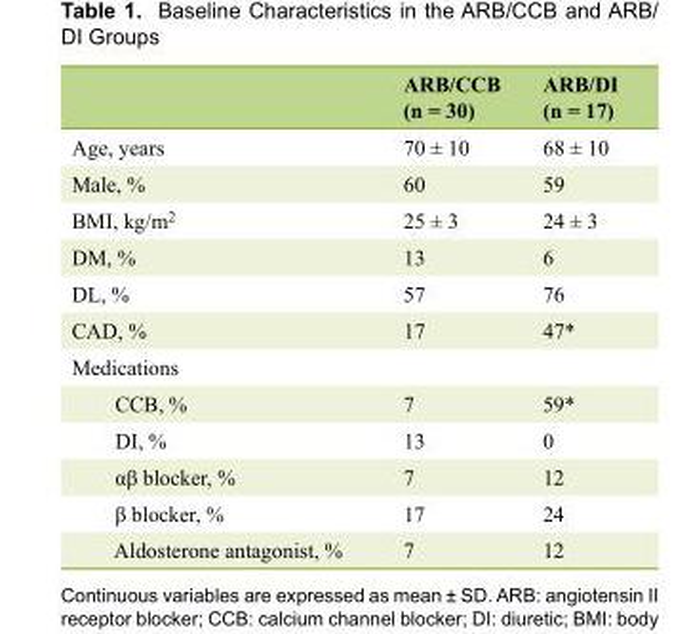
<table><thead><tr><td></td><td>ARB/CCB (n = 30)</td><td>ARB/DI (n = 17)</td></tr></thead><tbody><tr><td>Age, years</td><td>70 ± 10</td><td>68 ± 10</td></tr><tr><td>Male, %</td><td>60</td><td>59</td></tr><tr><td>BMI, kg/m<sup>2</sup></td><td>25 ± 3</td><td>24 ± 3</td></tr><tr><td>DM, %</td><td>13</td><td>6</td></tr><tr><td>DL, %</td><td>57</td><td>76</td></tr><tr><td>CAD, %</td><td>17</td><td>47*</td></tr><tr><td colspan="3">Medications</td></tr><tr><td>CCB, %</td><td>7</td><td>59*</td></tr><tr><td>DI, %</td><td>13</td><td>0</td></tr><tr><td>αβ blocker, %</td><td>7</td><td>12</td></tr><tr><td>β blocker, %</td><td>17</td><td>24</td></tr><tr><td>Aldosterone antagonist, %</td><td>7</td><td>12</td></tr></tbody></table>